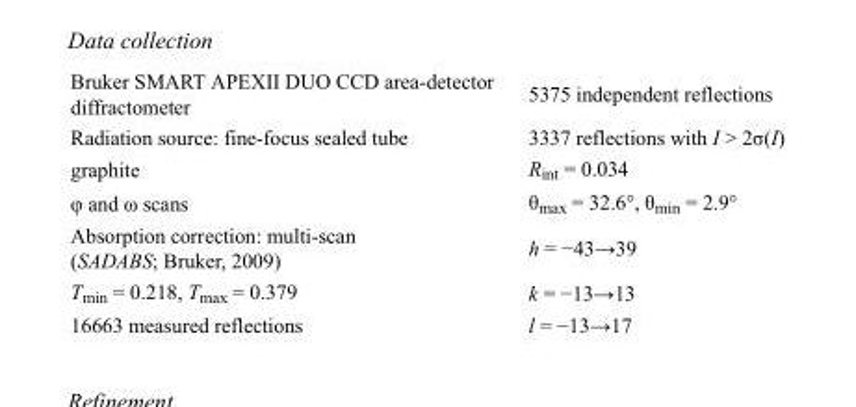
<table><tbody><tr><td>Bruker SMART APEXII DUO CCD area-detector diffractometer</td><td>5375 independent reflections</td></tr><tr><td>Radiation source: fine-focus sealed tube</td><td>3337 reflections with I &gt; 2σ(I)</td></tr><tr><td>graphite</td><td>R<sub>int</sub> = 0.034</td></tr><tr><td>φ and ω scans</td><td>θ<sub>max</sub> = 32.6°, θ<sub>min</sub> = 2.9°</td></tr><tr><td>Absorption correction: multi-scan (SADABS; Bruker, 2009)</td><td>h = −43→39</td></tr><tr><td>T<sub>min</sub> = 0.218, T<sub>max</sub> = 0.379</td><td>k = −13→13</td></tr><tr><td>16663 measured reflections</td><td>l = −13→17</td></tr></tbody></table>